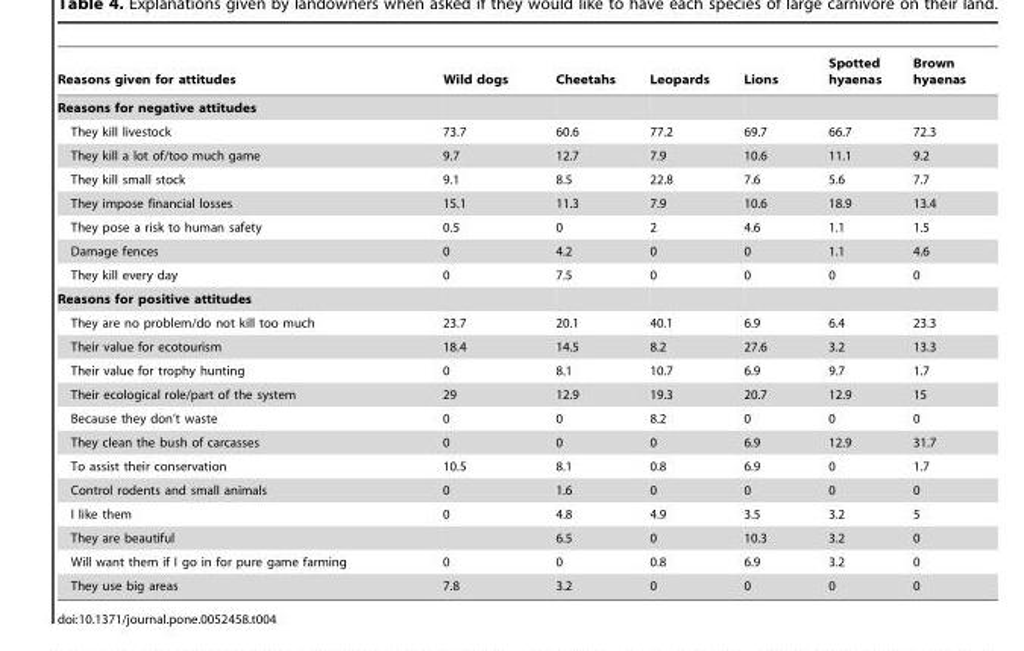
<table><thead><tr><td>Reasons given for attitudes</td><td>Wild dogs</td><td>Cheetahs</td><td>Leopards</td><td>Lions</td><td>Spotted hyaenas</td><td>Brown hyaenas</td></tr></thead><tbody><tr><td colspan="7">Reasons for negative attitudes</td></tr><tr><td>They kill livestock</td><td>73.7</td><td>60.6</td><td>77.2</td><td>69.7</td><td>66.7</td><td>72.3</td></tr><tr><td>They kill a lot of/too much game</td><td>9.7</td><td>12.7</td><td>7.9</td><td>10.6</td><td>11.1</td><td>9.2</td></tr><tr><td>They kill small stock</td><td>9.1</td><td>8.5</td><td>22.8</td><td>7.6</td><td>5.6</td><td>7.7</td></tr><tr><td>They impose financial losses</td><td>15.1</td><td>11.3</td><td>7.9</td><td>10.6</td><td>18.9</td><td>13.4</td></tr><tr><td>They pose a risk to human safety</td><td>0.5</td><td>0</td><td>2</td><td>4.6</td><td>1.1</td><td>1.5</td></tr><tr><td>Damage fences</td><td>0</td><td>4.2</td><td>0</td><td>0</td><td>1.1</td><td>4.6</td></tr><tr><td>They kill every day</td><td>0</td><td>7.5</td><td>0</td><td>0</td><td>0</td><td>0</td></tr><tr><td colspan="7">Reasons for positive attitudes</td></tr><tr><td>They are no problem/do not kill too much</td><td>23.7</td><td>20.1</td><td>40.1</td><td>6.9</td><td>6.4</td><td>23.3</td></tr><tr><td>Their value for ecotourism</td><td>18.4</td><td>14.5</td><td>8.2</td><td>27.6</td><td>3.2</td><td>13.3</td></tr><tr><td>Their value for trophy hunting</td><td>0</td><td>8.1</td><td>10.7</td><td>6.9</td><td>9.7</td><td>1.7</td></tr><tr><td>Their ecological role/part of the system</td><td>29</td><td>12.9</td><td>19.3</td><td>20.7</td><td>12.9</td><td>15</td></tr><tr><td>Because they don’t waste</td><td>0</td><td>0</td><td>8.2</td><td>0</td><td>0</td><td>0</td></tr><tr><td>They clean the bush of carcasses</td><td>0</td><td>0</td><td>0</td><td>6.9</td><td>12.9</td><td>31.7</td></tr><tr><td>To assist their conservation</td><td>10.5</td><td>8.1</td><td>0.8</td><td>6.9</td><td>0</td><td>1.7</td></tr><tr><td>Control rodents and small animals</td><td>0</td><td>1.6</td><td>0</td><td>0</td><td>0</td><td>0</td></tr><tr><td>I like them</td><td>0</td><td>4.8</td><td>4.9</td><td>3.5</td><td>3.2</td><td>5</td></tr><tr><td>They are beautiful</td><td></td><td>6.5</td><td>0</td><td>10.3</td><td>3.2</td><td>0</td></tr><tr><td>Will want them if I go in for pure game farming</td><td>0</td><td>0</td><td>0.8</td><td>6.9</td><td>3.2</td><td>0</td></tr><tr><td>They use big areas</td><td>7.8</td><td>3.2</td><td>0</td><td>0</td><td>0</td><td>0</td></tr></tbody></table>